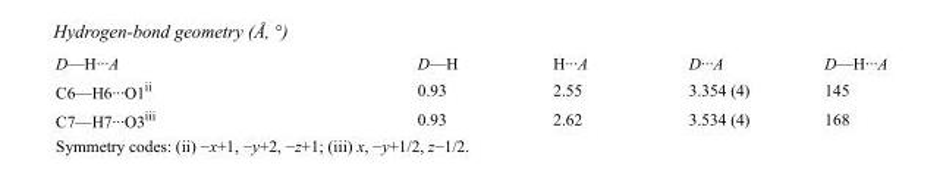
<table><tbody><tr><td>D—H···A</td><td>D—H</td><td>H···A</td><td>D···A</td><td>D—H···A</td></tr><tr><td>C6—H6···O1<sup>ii</sup></td><td>0.93</td><td>2.55</td><td>3.354 (4)</td><td>145</td></tr><tr><td>C7—H7···O3<sup>iii</sup></td><td>0.93</td><td>2.62</td><td>3.534 (4)</td><td>168</td></tr></tbody></table>